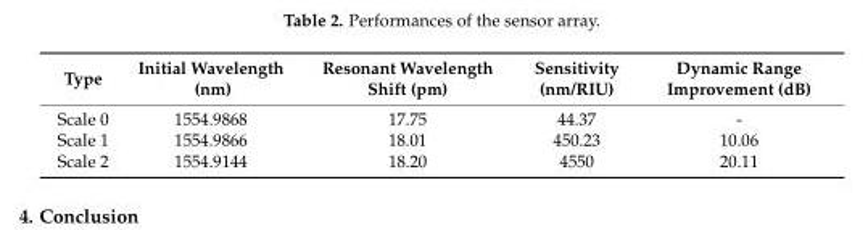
<table><thead><tr><td>Type</td><td>Initial Wavelength (nm)</td><td>Resonant Wavelength Shift (pm)</td><td>Sensitivity (nm/RIU)</td><td>Dynamic Range Improvement (dB)</td></tr></thead><tbody><tr><td>Scale 0</td><td>1554.9868</td><td>17.75</td><td>44.37</td><td>-</td></tr><tr><td>Scale 1</td><td>1554.9866</td><td>18.01</td><td>450.23</td><td>10.06</td></tr><tr><td>Scale 2</td><td>1554.9144</td><td>18.20</td><td>4550</td><td>20.11</td></tr></tbody></table>